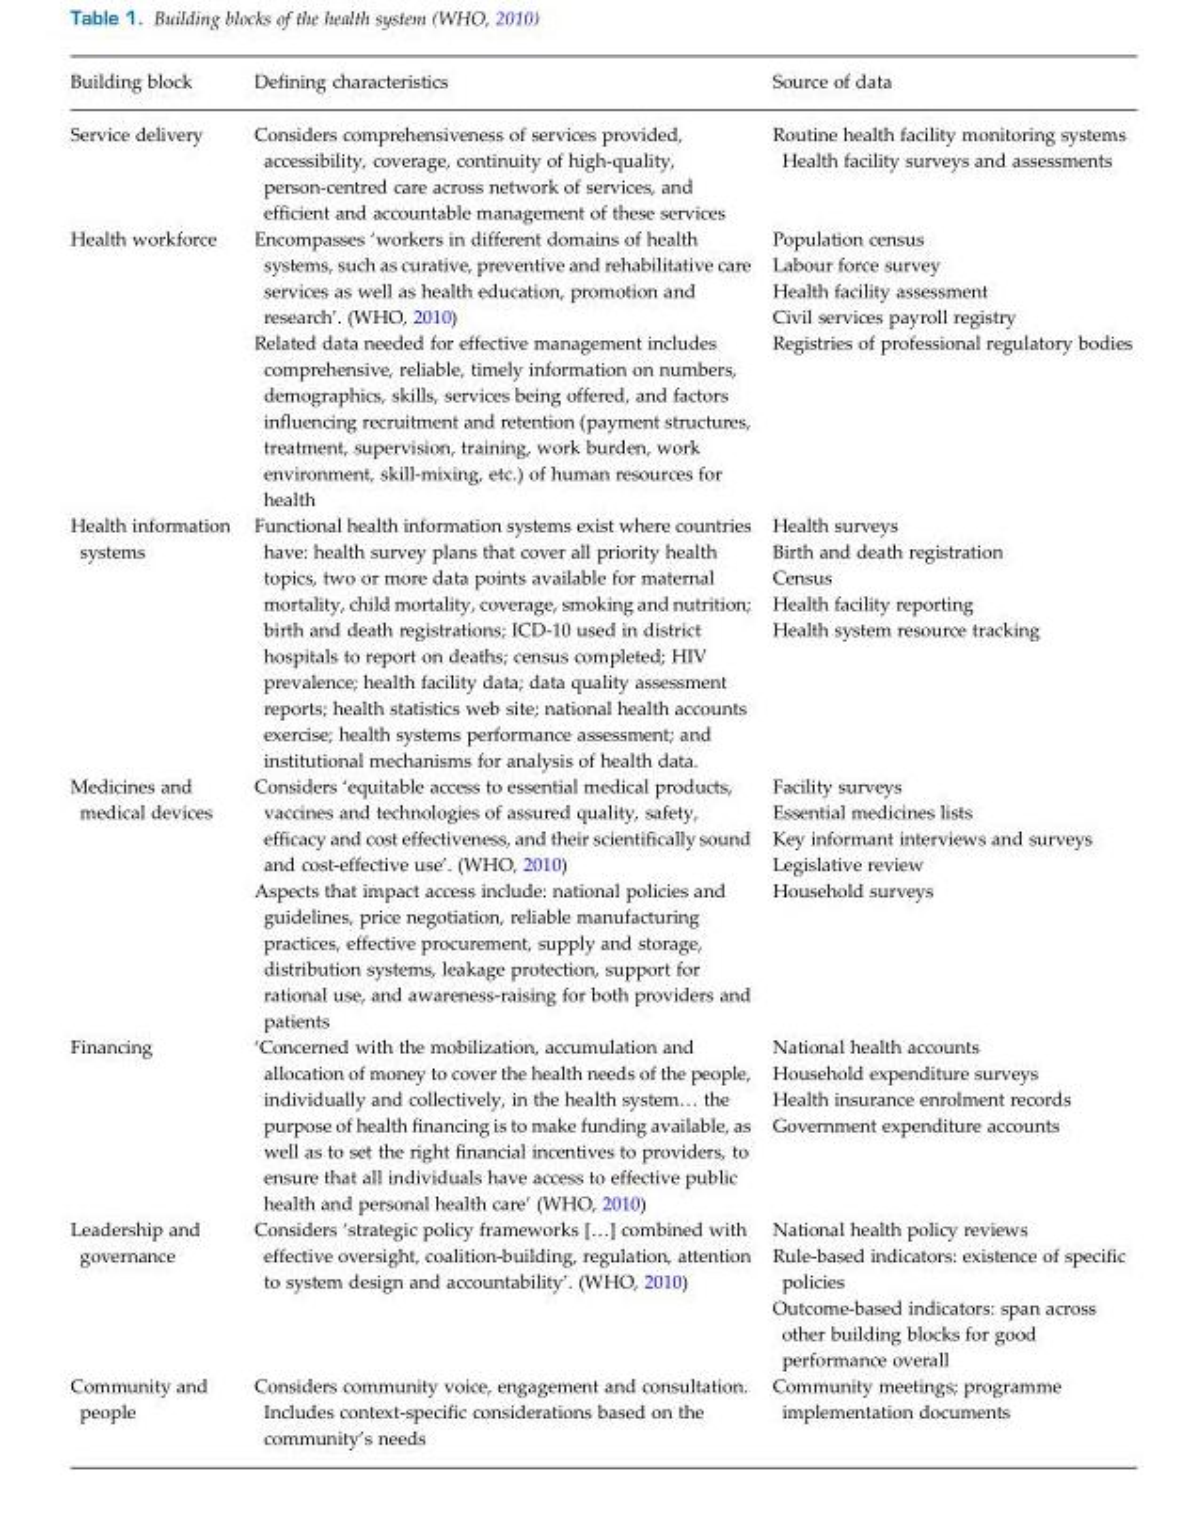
<table><thead><tr><td>Building block</td><td>Defining characteristics</td><td>Source of data</td></tr></thead><tbody><tr><td>Service delivery</td><td>Considers comprehensiveness of services provided, accessibility, coverage, continuity of high-quality, person-centred care across network of services, and efficient and accountable management of these services</td><td>Routine health facility monitoring systems Health facility surveys and assessments</td></tr><tr><td>Health workforce</td><td>Encompasses ‘workers in different domains of health systems, such as curative, preventive and rehabilitative care services as well as health education, promotion and research’. (WHO, 2010) Related data needed for effective management includes comprehensive, reliable, timely information on numbers, demographics, skills, services being offered, and factors influencing recruitment and retention (payment structures, treatment, supervision, training, work burden, work environment, skill-mixing, etc.) of human resources for health</td><td>Population census Labour force survey Health facility assessment Civil services payroll registry Registries of professional regulatory bodies</td></tr><tr><td>Health information systems</td><td>Functional health information systems exist where countries have: health survey plans that cover all priority health topics, two or more data points available for maternal mortality, child mortality, coverage, smoking and nutrition; birth and death registrations; ICD-10 used in district hospitals to report on deaths; census completed; HIV prevalence; health facility data; data quality assessment reports; health statistics web site; national health accounts exercise; health systems performance assessment; and institutional mechanisms for analysis of health data.</td><td>Health surveys Birth and death registration Census Health facility reporting Health system resource tracking</td></tr><tr><td>Medicines and medical devices</td><td>Considers ‘equitable access to essential medical products, vaccines and technologies of assured quality, safety, efficacy and cost effectiveness, and their scientifically sound and cost-effective use’. (WHO, 2010) Aspects that impact access include: national policies and guidelines, price negotiation, reliable manufacturing practices, effective procurement, supply and storage, distribution systems, leakage protection, support for rational use, and awareness-raising for both providers and patients</td><td>Facility surveys Essential medicines lists Key informant interviews and surveys Legislative review Household surveys</td></tr><tr><td>Financing</td><td>‘Concerned with the mobilization, accumulation and allocation of money to cover the health needs of the people, individually and collectively, in the health system… the purpose of health financing is to make funding available, as well as to set the right financial incentives to providers, to ensure that all individuals have access to effective public health and personal health care’ (WHO, 2010)</td><td>National health accounts Household expenditure surveys Health insurance enrolment records Government expenditure accounts</td></tr><tr><td>Leadership and governance</td><td>Considers ‘strategic policy frameworks […] combined with effective oversight, coalition-building, regulation, attention to system design and accountability’. (WHO, 2010)</td><td>National health policy reviews Rule-based indicators: existence of specific policies Outcome-based indicators: span across other building blocks for good performance overall</td></tr><tr><td>Community and people</td><td>Considers community voice, engagement and consultation. Includes context-specific considerations based on the community’s needs</td><td>Community meetings; programme implementation documents</td></tr></tbody></table>